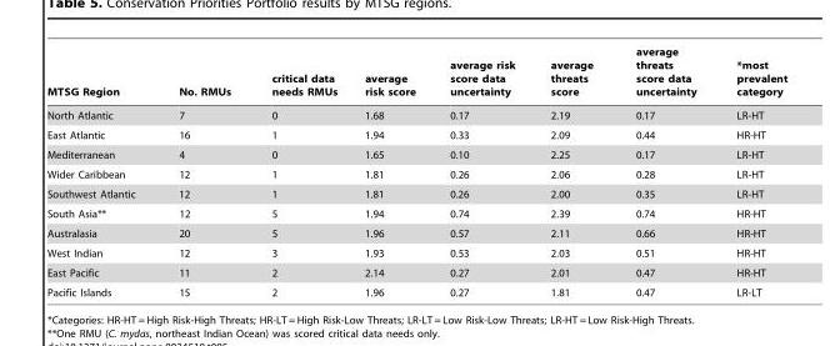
<table><thead><tr><td>MTSG Region</td><td>No. RMUs</td><td>critical data needs RMUs</td><td>average risk score</td><td>average risk score data uncertainty</td><td>average threats score</td><td>average threats score data uncertainty</td><td>*most prevalent category</td></tr></thead><tbody><tr><td>North Atlantic</td><td>7</td><td>0</td><td>1.68</td><td>0.17</td><td>2.19</td><td>0.17</td><td>LR-HT</td></tr><tr><td>East Atlantic</td><td>16</td><td>1</td><td>1.94</td><td>0.33</td><td>2.09</td><td>0.44</td><td>HR-HT</td></tr><tr><td>Mediterranean</td><td>4</td><td>0</td><td>1.65</td><td>0.10</td><td>2.25</td><td>0.17</td><td>LR-HT</td></tr><tr><td>Wider Caribbean</td><td>12</td><td>1</td><td>1.81</td><td>0.26</td><td>2.06</td><td>0.28</td><td>LR-HT</td></tr><tr><td>Southwest Atlantic</td><td>12</td><td>1</td><td>1.81</td><td>0.26</td><td>2.00</td><td>0.35</td><td>LR-HT</td></tr><tr><td>South Asia**</td><td>12</td><td>5</td><td>1.94</td><td>0.74</td><td>2.39</td><td>0.74</td><td>HR-HT</td></tr><tr><td>Australasia</td><td>20</td><td>5</td><td>1.96</td><td>0.57</td><td>2.11</td><td>0.66</td><td>HR-HT</td></tr><tr><td>West Indian</td><td>12</td><td>3</td><td>1.93</td><td>0.53</td><td>2.03</td><td>0.51</td><td>HR-HT</td></tr><tr><td>East Pacific</td><td>11</td><td>2</td><td>2.14</td><td>0.27</td><td>2.01</td><td>0.47</td><td>HR-HT</td></tr><tr><td>Pacific Islands</td><td>15</td><td>2</td><td>1.96</td><td>0.27</td><td>1.81</td><td>0.47</td><td>LR-LT</td></tr></tbody></table>